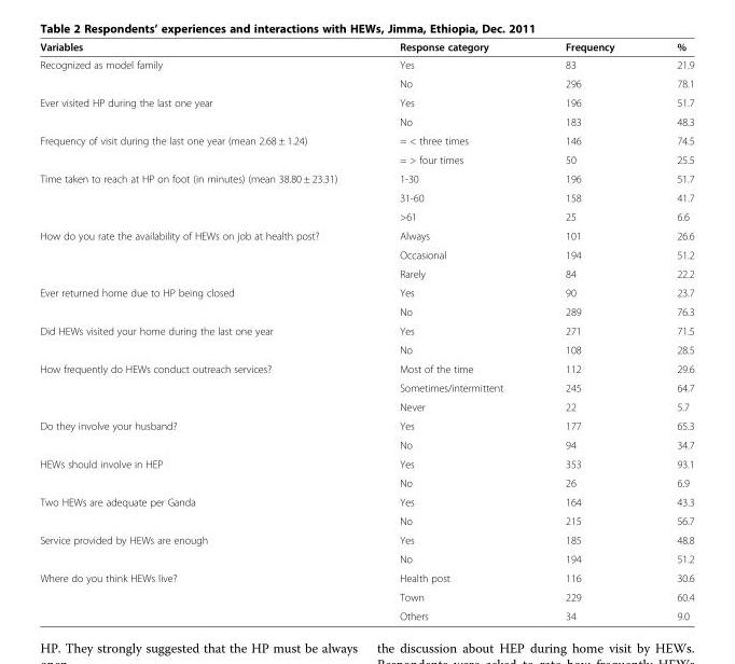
<table><thead><tr><td>Variables</td><td>Response category</td><td>Frequency</td><td>%</td></tr></thead><tbody><tr><td rowspan="2">Recognized as model family</td><td>Yes</td><td>83</td><td>21.9</td></tr><tr><td>No</td><td>296</td><td>78.1</td></tr><tr><td rowspan="2">Ever visited HP during the last one year</td><td>Yes</td><td>196</td><td>51.7</td></tr><tr><td>No</td><td>183</td><td>48.3</td></tr><tr><td rowspan="2">Frequency of visit during the last one year (mean 2.68 ± 1.24)</td><td>= &lt; three times</td><td>146</td><td>74.5</td></tr><tr><td>= &gt; four times</td><td>50</td><td>25.5</td></tr><tr><td rowspan="3">Time taken to reach at HP on foot (in minutes) (mean 38.80 ± 23.31)</td><td>1-30</td><td>196</td><td>51.7</td></tr><tr><td>31-60</td><td>158</td><td>41.7</td></tr><tr><td>&gt;61</td><td>25</td><td>6.6</td></tr><tr><td rowspan="3">How do you rate the availability of HEWs on job at health post?</td><td>Always</td><td>101</td><td>26.6</td></tr><tr><td>Occasional</td><td>194</td><td>51.2</td></tr><tr><td>Rarely</td><td>84</td><td>22.2</td></tr><tr><td rowspan="2">Ever returned home due to HP being closed</td><td>Yes</td><td>90</td><td>23.7</td></tr><tr><td>No</td><td>289</td><td>76.3</td></tr><tr><td rowspan="2">Did HEWs visited your home during the last one year</td><td>Yes</td><td>271</td><td>71.5</td></tr><tr><td>No</td><td>108</td><td>28.5</td></tr><tr><td rowspan="3">How frequently do HEWs conduct outreach services?</td><td>Most of the time</td><td>112</td><td>29.6</td></tr><tr><td>Sometimes/intermittent</td><td>245</td><td>64.7</td></tr><tr><td>Never</td><td>22</td><td>5.7</td></tr><tr><td rowspan="2">Do they involve your husband?</td><td>Yes</td><td>177</td><td>65.3</td></tr><tr><td>No</td><td>94</td><td>34.7</td></tr><tr><td rowspan="2">HEWs should involve in HEP</td><td>Yes</td><td>353</td><td>93.1</td></tr><tr><td>No</td><td>26</td><td>6.9</td></tr><tr><td rowspan="2">Two HEWs are adequate per Ganda</td><td>Yes</td><td>164</td><td>43.3</td></tr><tr><td>No</td><td>215</td><td>56.7</td></tr><tr><td rowspan="2">Service provided by HEWs are enough</td><td>Yes</td><td>185</td><td>48.8</td></tr><tr><td>No</td><td>194</td><td>51.2</td></tr><tr><td rowspan="3">Where do you think HEWs live?</td><td>Health post</td><td>116</td><td>30.6</td></tr><tr><td>Town</td><td>229</td><td>60.4</td></tr><tr><td>Others</td><td>34</td><td>9.0</td></tr></tbody></table>